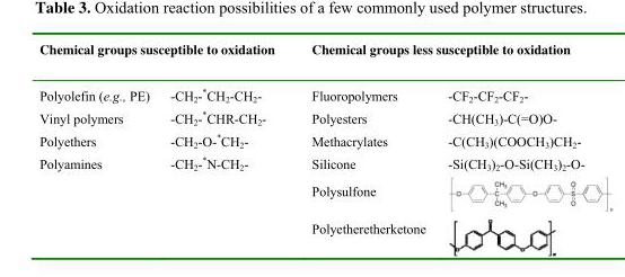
<table><thead><tr><td colspan="2">Chemical groups susceptible to oxidation</td><td colspan="2">Chemical groups less susceptible to oxidation</td></tr><tr><td>Polyolefin (e.g., PE)</td><td>-CH<sub>2</sub>-*CH<sub>2</sub>-CH<sub>2</sub>-</td><td>Fluoropolymers</td><td>-CF<sub>2</sub>-CF<sub>2</sub>-CF<sub>2</sub>-</td></tr></thead><tbody><tr><td>Vinyl polymers</td><td>-CH<sub>2</sub>-*CHR-CH<sub>2</sub>-</td><td>Polyesters</td><td>-CH(CH<sub>3</sub>)-C(=O)O-</td></tr><tr><td>Polyethers</td><td>-CH<sub>2</sub>-O-*CH<sub>2</sub>-</td><td>Methacrylates</td><td>-C(CH<sub>3</sub>)(COOCH<sub>3</sub>)CH<sub>2</sub>-</td></tr><tr><td rowspan="3">Polyamines</td><td>-CH<sub>2</sub>-*N-CH<sub>2</sub>-</td><td>Silicone</td><td>-Si(CH<sub>3</sub>)<sub>2</sub>-O-Si(CH<sub>3</sub>)<sub>2</sub>-O-</td></tr><tr><td></td><td>Polysulfone</td><td></td></tr><tr><td></td><td>Polyetheretherketone</td><td></td></tr></tbody></table>